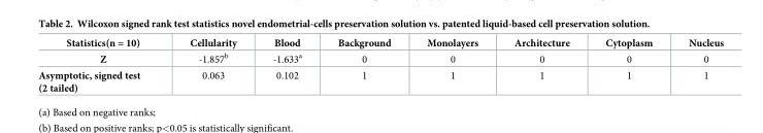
<table><thead><tr><td>Statistics(n = 10)</td><td>Cellularity</td><td>Blood</td><td>Background</td><td>Monolayers</td><td>Architecture</td><td>Cytoplasm</td><td>Nucleus</td></tr></thead><tbody><tr><td>Z</td><td>-1.857<sup>b</sup></td><td>-1.633<sup>a</sup></td><td>0</td><td>0</td><td>0</td><td>0</td><td>0</td></tr><tr><td>Asymptotic, signed test (2 tailed)</td><td>0.063</td><td>0.102</td><td>1</td><td>1</td><td>1</td><td>1</td><td>1</td></tr></tbody></table>